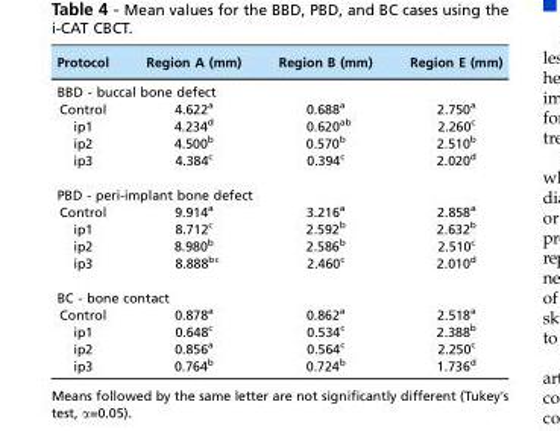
<table><thead><tr><td>Protocol</td><td>Region A (mm)</td><td>Region B (mm)</td><td>Region E (mm)</td></tr></thead><tbody><tr><td colspan="4">BBD - buccal bone defect</td></tr><tr><td>Control</td><td>4.622<sup>a</sup></td><td>0.688<sup>a</sup></td><td>2.750<sup>a</sup></td></tr><tr><td>ip1</td><td>4.234<sup>d</sup></td><td>0.620<sup>ab</sup></td><td>2.260<sup>c</sup></td></tr><tr><td>ip2</td><td>4.500<sup>b</sup></td><td>0.570<sup>b</sup></td><td>2.510<sup>b</sup></td></tr><tr><td>ip3</td><td>4.384<sup>c</sup></td><td>0.394<sup>c</sup></td><td>2.020<sup>d</sup></td></tr><tr><td colspan="4">PBD - peri-implant bone defect</td></tr><tr><td>Control</td><td>9.914<sup>a</sup></td><td>3.216<sup>a</sup></td><td>2.858<sup>a</sup></td></tr><tr><td>ip1</td><td>8.712<sup>c</sup></td><td>2.592<sup>b</sup></td><td>2.632<sup>b</sup></td></tr><tr><td>ip2</td><td>8.980<sup>b</sup></td><td>2.586<sup>b</sup></td><td>2.510<sup>c</sup></td></tr><tr><td>ip3</td><td>8.888<sup>bc</sup></td><td>2.460<sup>c</sup></td><td>2.010<sup>d</sup></td></tr><tr><td colspan="4">BC - bone contact</td></tr><tr><td>Control</td><td>0.878<sup>a</sup></td><td>0.862<sup>a</sup></td><td>2.518<sup>a</sup></td></tr><tr><td>ip1</td><td>0.648<sup>c</sup></td><td>0.534<sup>c</sup></td><td>2.388<sup>b</sup></td></tr><tr><td>ip2</td><td>0.856<sup>a</sup></td><td>0.564<sup>c</sup></td><td>2.250<sup>c</sup></td></tr><tr><td>ip3</td><td>0.764<sup>b</sup></td><td>0.724<sup>b</sup></td><td>1.736<sup>d</sup></td></tr></tbody></table>